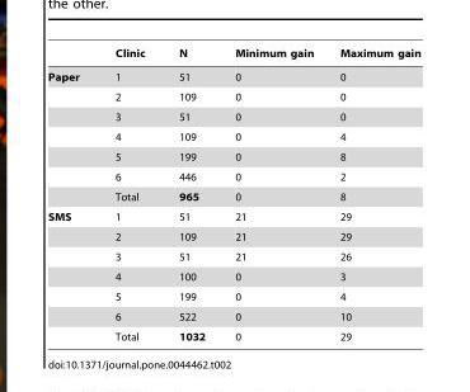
<table><thead><tr><td></td><td>Clinic</td><td>N</td><td>Minimum gain</td><td>Maximum gain</td></tr></thead><tbody><tr><td rowspan="7">Paper</td><td>1</td><td>51</td><td>0</td><td>0</td></tr><tr><td>2</td><td>109</td><td>0</td><td>0</td></tr><tr><td>3</td><td>51</td><td>0</td><td>0</td></tr><tr><td>4</td><td>109</td><td>0</td><td>4</td></tr><tr><td>5</td><td>199</td><td>0</td><td>8</td></tr><tr><td>6</td><td>446</td><td>0</td><td>2</td></tr><tr><td>Total</td><td>965</td><td>0</td><td>8</td></tr><tr><td rowspan="7">SMS</td><td>1</td><td>51</td><td>21</td><td>29</td></tr><tr><td>2</td><td>109</td><td>21</td><td>29</td></tr><tr><td>3</td><td>51</td><td>21</td><td>26</td></tr><tr><td>4</td><td>100</td><td>0</td><td>3</td></tr><tr><td>5</td><td>199</td><td>0</td><td>4</td></tr><tr><td>6</td><td>522</td><td>0</td><td>10</td></tr><tr><td>Total</td><td>1032</td><td>0</td><td>29</td></tr></tbody></table>